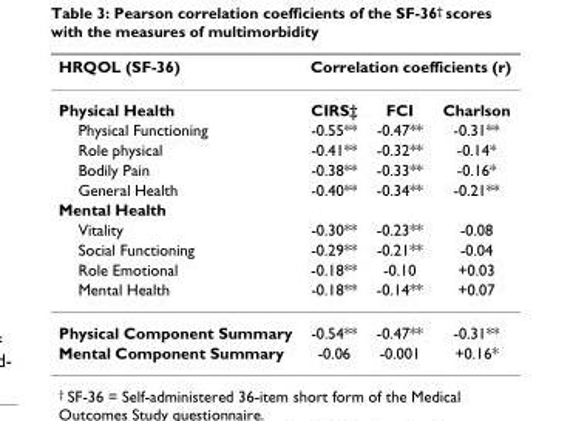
<table><thead><tr><td rowspan="2">HRQOL (SF-36) Physical Health</td><td colspan="3">Correlation coefficients (r)</td></tr><tr><td>CIRS‡</td><td>FCI</td><td>Charlson</td></tr></thead><tbody><tr><td>Physical Functioning</td><td>-0.55**</td><td>-0.47**</td><td>-0.31**</td></tr><tr><td>Role physical</td><td>-0.41**</td><td>-0.32**</td><td>-0.14*</td></tr><tr><td>Bodily Pain</td><td>-0.38**</td><td>-0.33**</td><td>-0.16*</td></tr><tr><td>General Health</td><td>-0.40**</td><td>-0.34**</td><td>-0.21**</td></tr><tr><td colspan="4">Mental Health</td></tr><tr><td>Vitality</td><td>-0.30**</td><td>-0.23**</td><td>-0.08</td></tr><tr><td>Social Functioning</td><td>-0.29**</td><td>-0.21**</td><td>-0.04</td></tr><tr><td>Role Emotional</td><td>-0.18**</td><td>-0.10</td><td>+0.03</td></tr><tr><td>Mental Health</td><td>-0.18**</td><td>-0.14**</td><td>+0.07</td></tr><tr><td>Physical Component Summary</td><td>-0.54**</td><td>-0.47**</td><td>-0.31**</td></tr><tr><td>Mental Component Summary</td><td>-0.06</td><td>-0.001</td><td>+0.16*</td></tr></tbody></table>